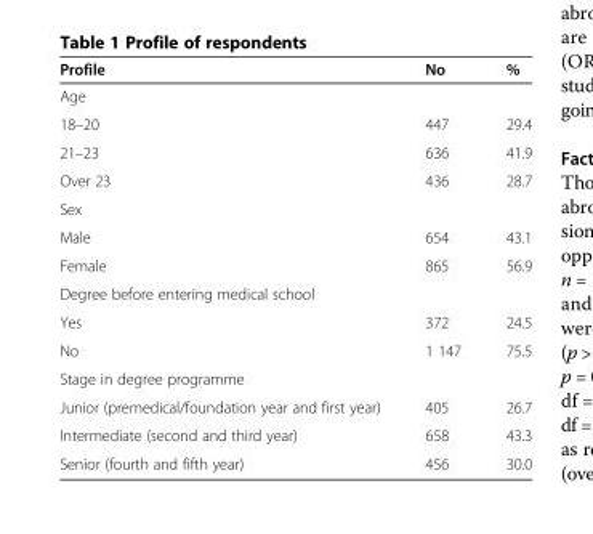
<table><thead><tr><td>Profile</td><td>No</td><td>%</td></tr></thead><tbody><tr><td colspan="3">Age</td></tr><tr><td>18–20</td><td>447</td><td>29.4</td></tr><tr><td>21–23</td><td>636</td><td>41.9</td></tr><tr><td>Over 23</td><td>436</td><td>28.7</td></tr><tr><td colspan="3">Sex</td></tr><tr><td>Male</td><td>654</td><td>43.1</td></tr><tr><td>Female</td><td>865</td><td>56.9</td></tr><tr><td colspan="3">Degree before entering medical school</td></tr><tr><td>Yes</td><td>372</td><td>24.5</td></tr><tr><td>No</td><td>1 147</td><td>75.5</td></tr><tr><td colspan="3">Stage in degree programme</td></tr><tr><td>Junior (premedical/foundation year and first year)</td><td>405</td><td>26.7</td></tr><tr><td>Intermediate (second and third year)</td><td>658</td><td>43.3</td></tr><tr><td>Senior (fourth and fifth year)</td><td>456</td><td>30.0</td></tr></tbody></table>